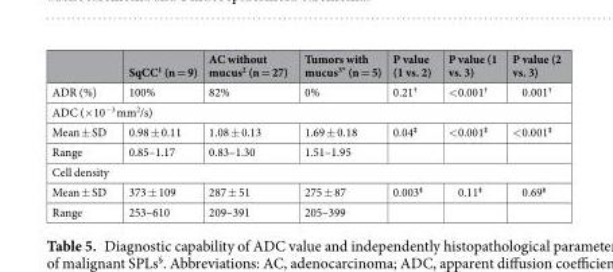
<table><thead><tr><td></td><td>SqCC<sup>1</sup> (n = 9)</td><td>AC without mucus<sup>2</sup> (n = 27)</td><td>Tumors with mucus<sup>3*</sup> (n = 5)</td><td>P value (1 vs. 2)</td><td>P value (1 vs. 3)</td><td>P value (2 vs. 3)</td></tr></thead><tbody><tr><td>ADR (%)</td><td>100%</td><td>82%</td><td>0%</td><td>0.21<sup>†</sup></td><td>&lt;0.001<sup>†</sup></td><td>0.001<sup>†</sup></td></tr><tr><td colspan="7">ADC (×10<sup>−3</sup> mm<sup>2</sup>/s)</td></tr><tr><td>Mean ± SD</td><td>0.98 ± 0.11</td><td>1.08 ± 0.13</td><td>1.69 ± 0.18</td><td>0.04<sup>‡</sup></td><td>&lt;0.001<sup>‡</sup></td><td>&lt;0.001<sup>‡</sup></td></tr><tr><td>Range</td><td>0.85–1.17</td><td>0.83–1.30</td><td>1.51–1.95</td><td></td><td></td><td></td></tr><tr><td colspan="7">Cell density</td></tr><tr><td>Mean ± SD</td><td>373 ± 109</td><td>287 ± 51</td><td>275 ± 87</td><td>0.003<sup>‡</sup></td><td>0.11<sup>‡</sup></td><td>0.69<sup>‡</sup></td></tr><tr><td>Range</td><td>253–610</td><td>209–391</td><td>205–399</td><td></td><td></td><td></td></tr></tbody></table>